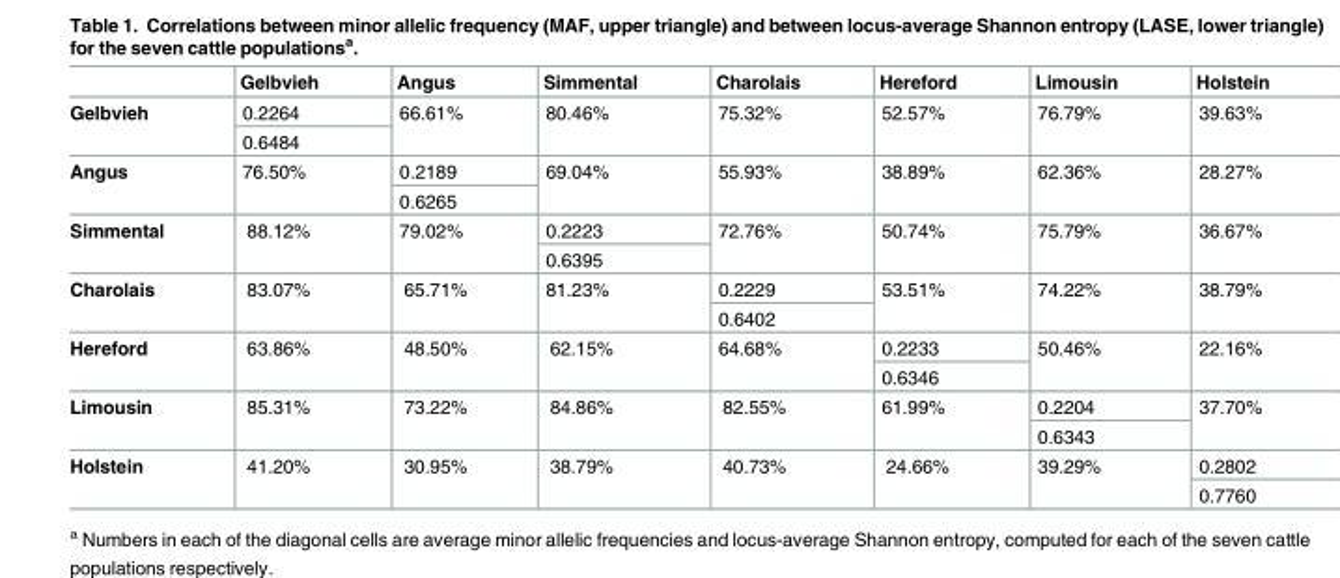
<table><thead><tr><td></td><td>Gelbvieh</td><td>Angus</td><td>Simmental</td><td>Charolais</td><td>Hereford</td><td>Limousin</td><td>Holstein</td></tr></thead><tbody><tr><td rowspan="2">Gelbvieh</td><td>0.2264</td><td rowspan="2">66.61%</td><td rowspan="2">80.46%</td><td rowspan="2">75.32%</td><td rowspan="2">52.57%</td><td rowspan="2">76.79%</td><td rowspan="2">39.63%</td></tr><tr><td>0.6484</td></tr><tr><td rowspan="2">Angus</td><td rowspan="2">76.50%</td><td>0.2189</td><td rowspan="2">69.04%</td><td rowspan="2">55.93%</td><td rowspan="2">38.89%</td><td rowspan="2">62.36%</td><td rowspan="2">28.27%</td></tr><tr><td>0.6265</td></tr><tr><td rowspan="2">Simmental</td><td rowspan="2">88.12%</td><td rowspan="2">79.02%</td><td>0.2223</td><td rowspan="2">72.76%</td><td rowspan="2">50.74%</td><td rowspan="2">75.79%</td><td rowspan="2">36.67%</td></tr><tr><td>0.6395</td></tr><tr><td rowspan="2">Charolais</td><td rowspan="2">83.07%</td><td rowspan="2">65.71%</td><td rowspan="2">81.23%</td><td>0.2229</td><td rowspan="2">53.51%</td><td rowspan="2">74.22%</td><td rowspan="2">38.79%</td></tr><tr><td>0.6402</td></tr><tr><td rowspan="2">Hereford</td><td rowspan="2">63.86%</td><td rowspan="2">48.50%</td><td rowspan="2">62.15%</td><td rowspan="2">64.68%</td><td>0.2233</td><td rowspan="2">50.46%</td><td rowspan="2">22.16%</td></tr><tr><td>0.6346</td></tr><tr><td rowspan="2">Limousin</td><td rowspan="2">85.31%</td><td rowspan="2">73.22%</td><td rowspan="2">84.86%</td><td rowspan="2">82.55%</td><td rowspan="2">61.99%</td><td>0.2204</td><td rowspan="2">37.70%</td></tr><tr><td>0.6343</td></tr><tr><td rowspan="2">Holstein</td><td rowspan="2">41.20%</td><td rowspan="2">30.95%</td><td rowspan="2">38.79%</td><td rowspan="2">40.73%</td><td rowspan="2">24.66%</td><td rowspan="2">39.29%</td><td>0.2802</td></tr><tr><td>0.7760</td></tr></tbody></table>